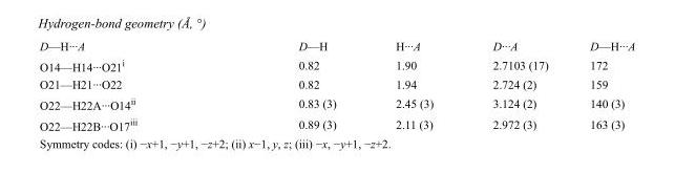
<table><tbody><tr><td>D—H···A</td><td>D—H</td><td>H···A</td><td>D···A</td><td>D—H···A</td></tr><tr><td>O14—H14···O21<sup>i</sup></td><td>0.82</td><td>1.90</td><td>2.7103 (17)</td><td>172</td></tr><tr><td>O21—H21···O22</td><td>0.82</td><td>1.94</td><td>2.724 (2)</td><td>159</td></tr><tr><td>O22—H22A···O14<sup>ii</sup></td><td>0.83 (3)</td><td>2.45 (3)</td><td>3.124 (2)</td><td>140 (3)</td></tr><tr><td>O22—H22B···O17<sup>iii</sup></td><td>0.89 (3)</td><td>2.11 (3)</td><td>2.972 (3)</td><td>163 (3)</td></tr></tbody></table>